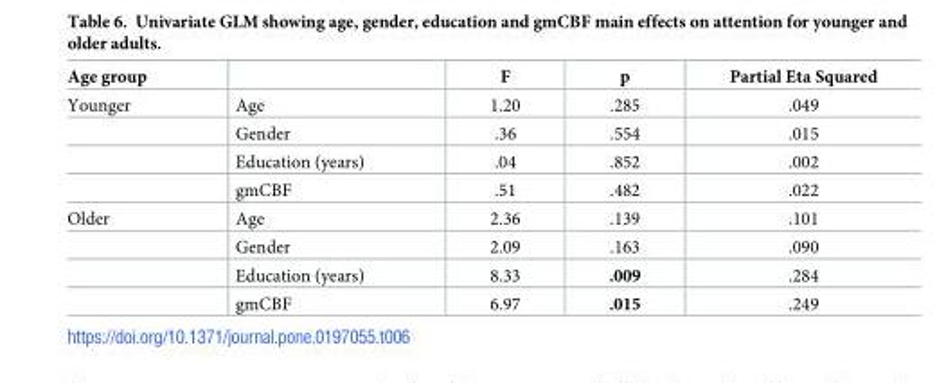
<table><thead><tr><td>Age group</td><td></td><td>F</td><td>p</td><td>Partial Eta Squared</td></tr></thead><tbody><tr><td rowspan="4">Younger</td><td>Age</td><td>1.20</td><td>.285</td><td>.049</td></tr><tr><td>Gender</td><td>.36</td><td>.554</td><td>.015</td></tr><tr><td>Education (years)</td><td>.04</td><td>.852</td><td>.002</td></tr><tr><td>gmCBF</td><td>.51</td><td>.482</td><td>.022</td></tr><tr><td rowspan="4">Older</td><td>Age</td><td>2.36</td><td>.139</td><td>.101</td></tr><tr><td>Gender</td><td>2.09</td><td>.163</td><td>.090</td></tr><tr><td>Education (years)</td><td>8.33</td><td>.009</td><td>.284</td></tr><tr><td>gmCBF</td><td>6.97</td><td>.015</td><td>.249</td></tr></tbody></table>